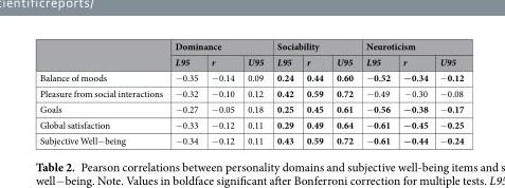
<table><thead><tr><td rowspan="2"></td><td colspan="3">Dominance</td><td colspan="3">Sociability</td><td colspan="3">Neuroticism</td></tr><tr><td>L95</td><td>r</td><td>U95</td><td>L95</td><td>r</td><td>U95</td><td>L95</td><td>r</td><td>U95</td></tr></thead><tbody><tr><td>Balance of moods</td><td>−0.35</td><td>−0.14</td><td>0.09</td><td>0.24</td><td>0.44</td><td>0.60</td><td>−0.52</td><td>−0.34</td><td>−0.12</td></tr><tr><td>Pleasure from social interactions</td><td>−0.32</td><td>−0.10</td><td>0.12</td><td>0.42</td><td>0.59</td><td>0.72</td><td>−0.49</td><td>−0.30</td><td>−0.08</td></tr><tr><td>Goals</td><td>−0.27</td><td>−0.05</td><td>0.18</td><td>0.25</td><td>0.45</td><td>0.61</td><td>−0.56</td><td>−0.38</td><td>−0.17</td></tr><tr><td>Global satisfaction</td><td>−0.33</td><td>−0.12</td><td>0.11</td><td>0.29</td><td>0.49</td><td>0.64</td><td>−0.61</td><td>−0.45</td><td>−0.25</td></tr><tr><td>Subjective Well−being</td><td>−0.34</td><td>−0.12</td><td>0.11</td><td>0.43</td><td>0.59</td><td>0.72</td><td>−0.61</td><td>−0.44</td><td>−0.24</td></tr></tbody></table>